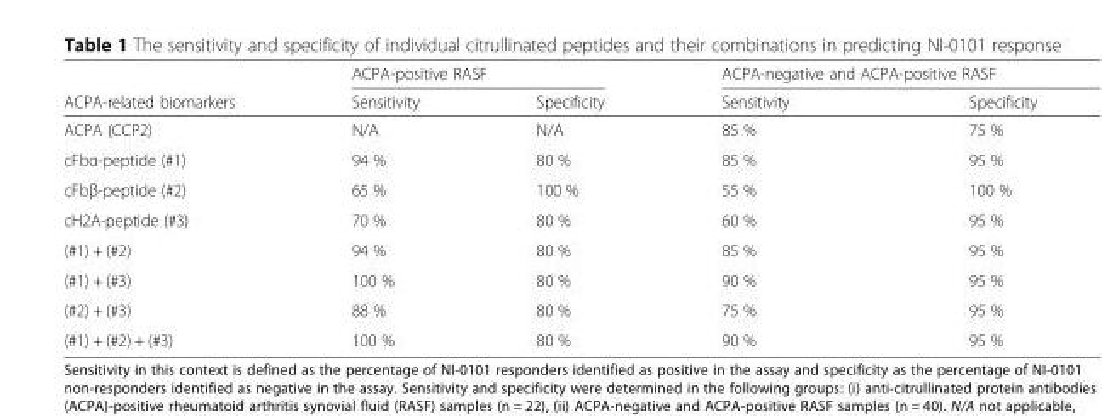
<table><thead><tr><td rowspan="2">ACPA-related biomarkers</td><td colspan="2">ACPA-positive RASF</td><td colspan="2">ACPA-negative and ACPA-positive RASF</td></tr><tr><td>Sensitivity</td><td>Specificity</td><td>Sensitivity</td><td>Specificity</td></tr></thead><tbody><tr><td>ACPA (CCP2)</td><td>N/A</td><td>N/A</td><td>85 %</td><td>75 %</td></tr><tr><td>cFbα-peptide (#1)</td><td>94 %</td><td>80 %</td><td>85 %</td><td>95 %</td></tr><tr><td>cFbβ-peptide (#2)</td><td>65 %</td><td>100 %</td><td>55 %</td><td>100 %</td></tr><tr><td>cH2A-peptide (#3)</td><td>70 %</td><td>80 %</td><td>60 %</td><td>95 %</td></tr><tr><td>(#1) + (#2)</td><td>94 %</td><td>80 %</td><td>85 %</td><td>95 %</td></tr><tr><td>(#1) + (#3)</td><td>100 %</td><td>80 %</td><td>90 %</td><td>95 %</td></tr><tr><td>(#2) + (#3)</td><td>88 %</td><td>80 %</td><td>75 %</td><td>95 %</td></tr><tr><td>(#1) + (#2) + (#3)</td><td>100 %</td><td>80 %</td><td>90 %</td><td>95 %</td></tr></tbody></table>